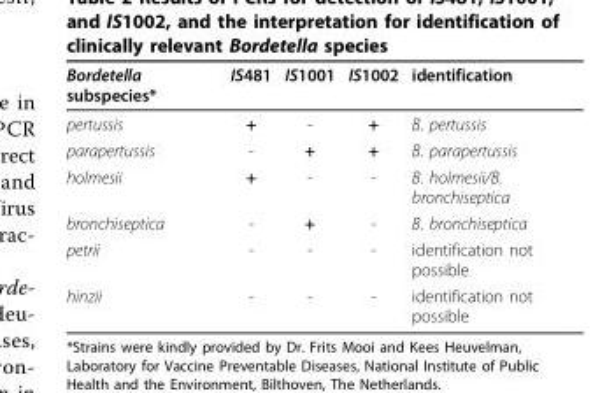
<table><thead><tr><td>Bordetella subspecies*</td><td>IS481</td><td>IS1001</td><td>IS1002</td><td>identification</td></tr></thead><tbody><tr><td>pertussis</td><td>+</td><td>-</td><td>+</td><td>B. pertussis</td></tr><tr><td>parapertussis</td><td>-</td><td>+</td><td>+</td><td>B. parapertussis</td></tr><tr><td>holmesii</td><td>+</td><td>-</td><td>-</td><td>B. holmesii/B. bronchiseptica</td></tr><tr><td>bronchiseptica</td><td>-</td><td>+</td><td>-</td><td>B. bronchiseptica</td></tr><tr><td>petrii</td><td>-</td><td>-</td><td>-</td><td>identification not possible</td></tr><tr><td>hinzii</td><td>-</td><td>-</td><td>-</td><td>identification not possible</td></tr></tbody></table>